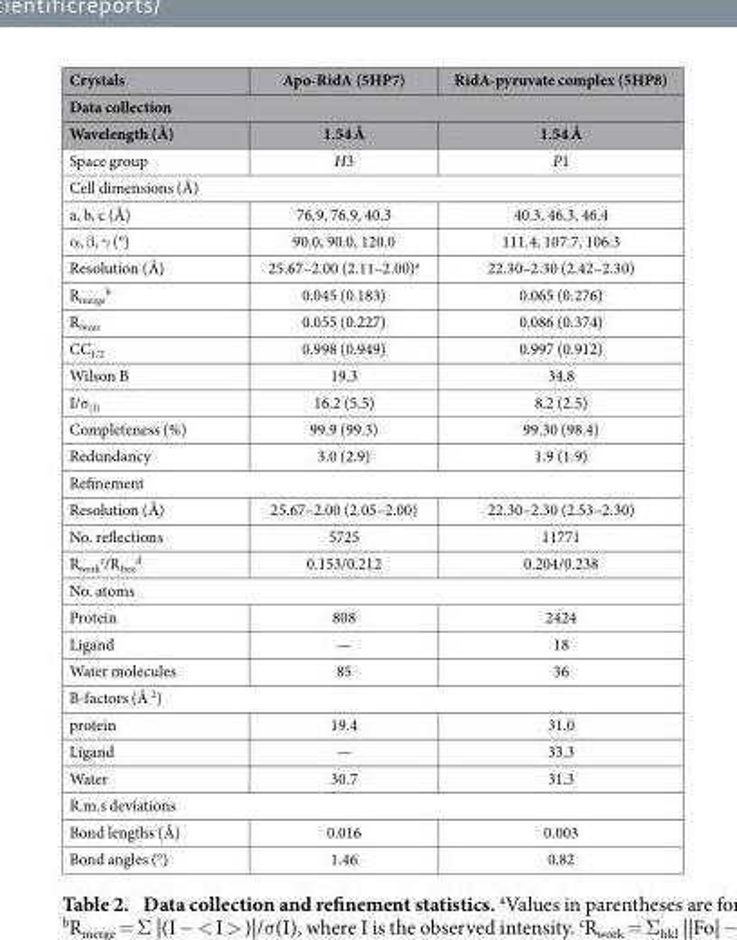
<table><thead><tr><td>Crystals</td><td>Apo-RidA (5HP7)</td><td>RidA-pyruvate complex (5HP8)</td></tr><tr><td colspan="3">Data collection</td></tr><tr><td>Wavelength (Å)</td><td>1.54 Å</td><td>1.54 Å</td></tr></thead><tbody><tr><td>Space group</td><td>H3</td><td>P1</td></tr><tr><td colspan="3">Cell dimensions (Å)</td></tr><tr><td>a, b, c (Å)</td><td>76.9, 76.9, 40.3</td><td>40.3, 46.3, 46.4</td></tr><tr><td>α , β , γ (°)</td><td>90.0, 90.0, 120.0</td><td>111.4, 107.7, 106.3</td></tr><tr><td>Resolution (Å)</td><td>25.67–2.00 (2.11–2.00)<sup>a</sup></td><td>22.30–2.30 (2.42–2.30)</td></tr><tr><td>R<sub>merge</sub> <sup>b</sup></td><td>0.045 (0.183)</td><td>0.065 (0.276)</td></tr><tr><td>R<sub>meas</sub></td><td>0.055 (0.227)</td><td>0.086 (0.374)</td></tr><tr><td>CC<sub>1/2</sub></td><td>0.998 (0.949)</td><td>0.997 (0.912)</td></tr><tr><td>Wilson B</td><td>19.3</td><td>34.8</td></tr><tr><td>I/σ <sub>(I)</sub></td><td>16.2 (5.5)</td><td>8.2 (2.5)</td></tr><tr><td>Completeness (%)</td><td>99.9 (99.3)</td><td>99.30 (98.4)</td></tr><tr><td>Redundancy</td><td>3.0 (2.9)</td><td>1.9 (1.9)</td></tr><tr><td colspan="3">Refinement</td></tr><tr><td>Resolution (Å)</td><td>25.67–2.00 (2.05–2.00)</td><td>22.30–2.30 (2.53–2.30)</td></tr><tr><td>No. reflections</td><td>5725</td><td>11771</td></tr><tr><td>R<sub>work</sub> <sup>c</sup>/R<sub>free</sub> <sup>d</sup></td><td>0.153/0.212</td><td>0.204/0.238</td></tr><tr><td colspan="3">No. atoms</td></tr><tr><td>Protein</td><td>808</td><td>2424</td></tr><tr><td>Ligand</td><td>—</td><td>18</td></tr><tr><td>Water molecules</td><td>85</td><td>36</td></tr><tr><td colspan="3">B-factors (Å <sup>2</sup>)</td></tr><tr><td>protein</td><td>19.4</td><td>31.0</td></tr><tr><td>Ligand</td><td>—</td><td>33.3</td></tr><tr><td>Water</td><td>30.7</td><td>31.3</td></tr><tr><td colspan="3">R.m.s deviations</td></tr><tr><td>Bond lengths (Å)</td><td>0.016</td><td>0.003</td></tr><tr><td>Bond angles (°)</td><td>1.46</td><td>0.82</td></tr></tbody></table>